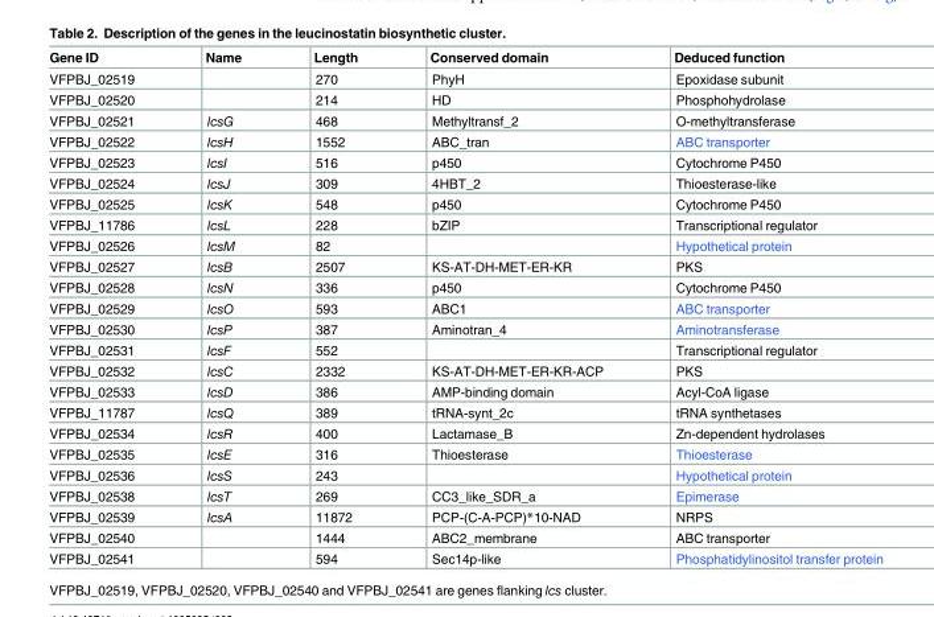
<table><thead><tr><td>Gene ID</td><td>Name</td><td>Length</td><td>Conserved domain</td><td>Deduced function</td></tr></thead><tbody><tr><td>VFPBJ_02519</td><td></td><td>270</td><td>PhyH</td><td>Epoxidase subunit</td></tr><tr><td>VFPBJ_02520</td><td></td><td>214</td><td>HD</td><td>Phosphohydrolase</td></tr><tr><td>VFPBJ_02521</td><td>lcsG</td><td>468</td><td>Methyltransf_2</td><td>O-methyltransferase</td></tr><tr><td>VFPBJ_02522</td><td>lcsH</td><td>1552</td><td>ABC_tran</td><td>ABC transporter</td></tr><tr><td>VFPBJ_02523</td><td>lcsI</td><td>516</td><td>p450</td><td>Cytochrome P450</td></tr><tr><td>VFPBJ_02524</td><td>lcsJ</td><td>309</td><td>4HBT_2</td><td>Thioesterase-like</td></tr><tr><td>VFPBJ_02525</td><td>lcsK</td><td>548</td><td>p450</td><td>Cytochrome P450</td></tr><tr><td>VFPBJ_11786</td><td>lcsL</td><td>228</td><td>bZIP</td><td>Transcriptional regulator</td></tr><tr><td>VFPBJ_02526</td><td>lcsM</td><td>82</td><td></td><td>Hypothetical protein</td></tr><tr><td>VFPBJ_02527</td><td>lcsB</td><td>2507</td><td>KS-AT-DH-MET-ER-KR</td><td>PKS</td></tr><tr><td>VFPBJ_02528</td><td>lcsN</td><td>336</td><td>p450</td><td>Cytochrome P450</td></tr><tr><td>VFPBJ_02529</td><td>lcsO</td><td>593</td><td>ABC1</td><td>ABC transporter</td></tr><tr><td>VFPBJ_02530</td><td>lcsP</td><td>387</td><td>Aminotran_4</td><td>Aminotransferase</td></tr><tr><td>VFPBJ_02531</td><td>lcsF</td><td>552</td><td></td><td>Transcriptional regulator</td></tr><tr><td>VFPBJ_02532</td><td>lcsC</td><td>2332</td><td>KS-AT-DH-MET-ER-KR-ACP</td><td>PKS</td></tr><tr><td>VFPBJ_02533</td><td>lcsD</td><td>386</td><td>AMP-binding domain</td><td>Acyl-CoA ligase</td></tr><tr><td>VFPBJ_11787</td><td>lcsQ</td><td>389</td><td>tRNA-synt_2c</td><td>tRNA synthetases</td></tr><tr><td>VFPBJ_02534</td><td>lcsR</td><td>400</td><td>Lactamase_B</td><td>Zn-dependent hydrolases</td></tr><tr><td>VFPBJ_02535</td><td>lcsE</td><td>316</td><td>Thioesterase</td><td>Thioesterase</td></tr><tr><td>VFPBJ_02536</td><td>lcsS</td><td>243</td><td></td><td>Hypothetical protein</td></tr><tr><td>VFPBJ_02538</td><td>lcsT</td><td>269</td><td>CC3_like_SDR_a</td><td>Epimerase</td></tr><tr><td>VFPBJ_02539</td><td>lcsA</td><td>11872</td><td>PCP-(C-A-PCP)*10-NAD</td><td>NRPS</td></tr><tr><td>VFPBJ_02540</td><td></td><td>1444</td><td>ABC2_membrane</td><td>ABC transporter</td></tr><tr><td>VFPBJ_02541</td><td></td><td>594</td><td>Sec14p-like</td><td>Phosphatidylinositol transfer protein</td></tr></tbody></table>